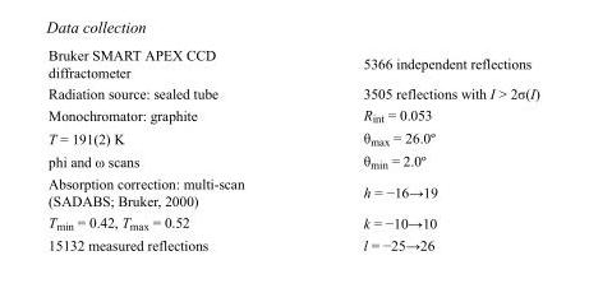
<table><tbody><tr><td>Bruker SMART APEX CCD diffractometer</td><td>5366 independent reflections</td></tr><tr><td>Radiation source: sealed tube</td><td>3505 reflections with I &gt; 2σ(I)</td></tr><tr><td>Monochromator: graphite</td><td>R<sub>int</sub> = 0.053</td></tr><tr><td>T = 191(2) K</td><td>θ<sub>max</sub> = 26.0º</td></tr><tr><td>phi and ω scans</td><td>θ<sub>min</sub> = 2.0º</td></tr><tr><td>Absorption correction: multi-scan (SADABS; Bruker, 2000)</td><td>h = −16→19</td></tr><tr><td>T<sub>min</sub> = 0.42, T<sub>max</sub> = 0.52</td><td>k = −10→10</td></tr><tr><td>15132 measured reflections</td><td>l = −25→26</td></tr></tbody></table>